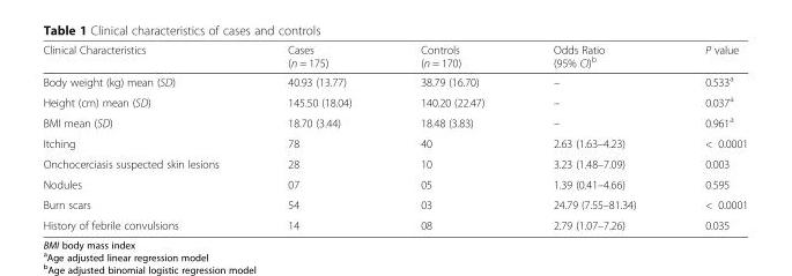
<table><thead><tr><td>Clinical Characteristics</td><td>Cases (n = 175)</td><td>Controls (n = 170)</td><td>Odds Ratio (95% CI)<sup>b</sup></td><td>P value</td></tr></thead><tbody><tr><td>Body weight (kg) mean (SD)</td><td>40.93 (13.77)</td><td>38.79 (16.70)</td><td>–</td><td>0.533<sup>a</sup></td></tr><tr><td>Height (cm) mean (SD)</td><td>145.50 (18.04)</td><td>140.20 (22.47)</td><td>–</td><td>0.037<sup>a</sup></td></tr><tr><td>BMI mean (SD)</td><td>18.70 (3.44)</td><td>18.48 (3.83)</td><td>–</td><td>0.961<sup>a</sup></td></tr><tr><td>Itching</td><td>78</td><td>40</td><td>2.63 (1.63–4.23)</td><td>&lt; 0.0001</td></tr><tr><td>Onchocerciasis suspected skin lesions</td><td>28</td><td>10</td><td>3.23 (1.48–7.09)</td><td>0.003</td></tr><tr><td>Nodules</td><td>07</td><td>05</td><td>1.39 (0.41–4.66)</td><td>0.595</td></tr><tr><td>Burn scars</td><td>54</td><td>03</td><td>24.79 (7.55–81.34)</td><td>&lt; 0.0001</td></tr><tr><td>History of febrile convulsions</td><td>14</td><td>08</td><td>2.79 (1.07–7.26)</td><td>0.035</td></tr></tbody></table>